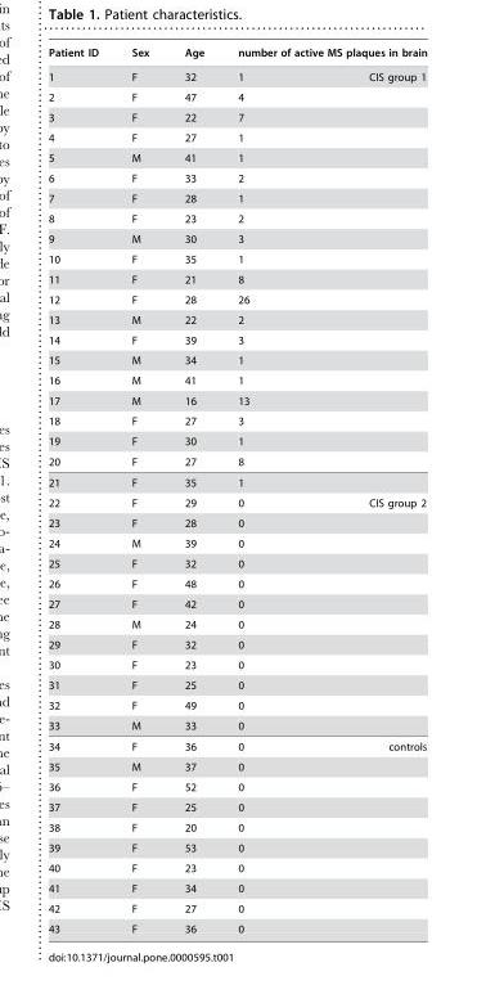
<table><thead><tr><td>Patient ID</td><td>Sex</td><td>Age</td><td>number of active MS plaques in brain</td></tr></thead><tbody><tr><td>1</td><td>F</td><td>32</td><td>1 CIS group 1</td></tr><tr><td>2</td><td>F</td><td>47</td><td>4</td></tr><tr><td>3</td><td>F</td><td>22</td><td>7</td></tr><tr><td>4</td><td>F</td><td>27</td><td>1</td></tr><tr><td>5</td><td>M</td><td>41</td><td>1</td></tr><tr><td>6</td><td>F</td><td>33</td><td>2</td></tr><tr><td>7</td><td>F</td><td>28</td><td>1</td></tr><tr><td>8</td><td>F</td><td>23</td><td>2</td></tr><tr><td>9</td><td>M</td><td>30</td><td>3</td></tr><tr><td>10</td><td>F</td><td>35</td><td>1</td></tr><tr><td>11</td><td>F</td><td>21</td><td>8</td></tr><tr><td>12</td><td>F</td><td>28</td><td>26</td></tr><tr><td>13</td><td>M</td><td>22</td><td>2</td></tr><tr><td>14</td><td>F</td><td>39</td><td>3</td></tr><tr><td>15</td><td>M</td><td>34</td><td>1</td></tr><tr><td>16</td><td>M</td><td>41</td><td>1</td></tr><tr><td>17</td><td>M</td><td>16</td><td>13</td></tr><tr><td>18</td><td>F</td><td>27</td><td>3</td></tr><tr><td>19</td><td>F</td><td>30</td><td>1</td></tr><tr><td>20</td><td>F</td><td>27</td><td>8</td></tr><tr><td>21</td><td>F</td><td>35</td><td>1</td></tr><tr><td>22</td><td>F</td><td>29</td><td>0 CIS group 2</td></tr><tr><td>23</td><td>F</td><td>28</td><td>0</td></tr><tr><td>24</td><td>M</td><td>39</td><td>0</td></tr><tr><td>25</td><td>F</td><td>32</td><td>0</td></tr><tr><td>26</td><td>F</td><td>48</td><td>0</td></tr><tr><td>27</td><td>F</td><td>42</td><td>0</td></tr><tr><td>28</td><td>M</td><td>24</td><td>0</td></tr><tr><td>29</td><td>F</td><td>32</td><td>0</td></tr><tr><td>30</td><td>F</td><td>23</td><td>0</td></tr><tr><td>31</td><td>F</td><td>25</td><td>0</td></tr><tr><td>32</td><td>F</td><td>49</td><td>0</td></tr><tr><td>33</td><td>M</td><td>33</td><td>0</td></tr><tr><td>34</td><td>F</td><td>36</td><td>0 controls</td></tr><tr><td>35</td><td>M</td><td>37</td><td>0</td></tr><tr><td>36</td><td>F</td><td>52</td><td>0</td></tr><tr><td>37</td><td>F</td><td>25</td><td>0</td></tr><tr><td>38</td><td>F</td><td>20</td><td>0</td></tr><tr><td>39</td><td>F</td><td>53</td><td>0</td></tr><tr><td>40</td><td>F</td><td>23</td><td>0</td></tr><tr><td>41</td><td>F</td><td>34</td><td>0</td></tr><tr><td>42</td><td>F</td><td>27</td><td>0</td></tr><tr><td>43</td><td>F</td><td>36</td><td>0</td></tr></tbody></table>